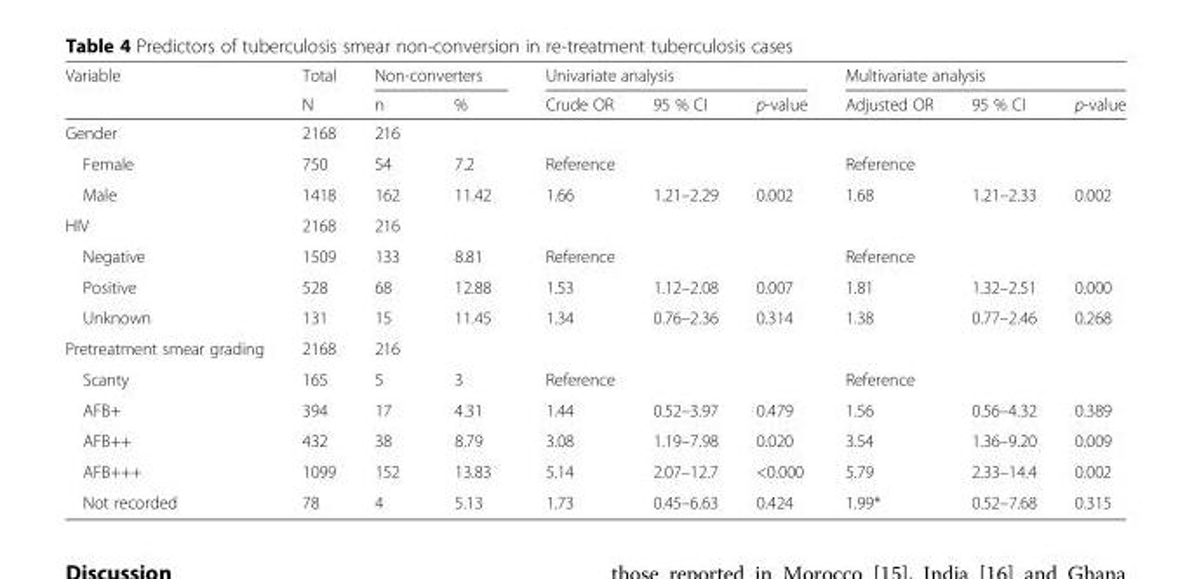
<table><thead><tr><td rowspan="2">Variable</td><td rowspan="2">Total N</td><td colspan="2">Non-converters</td><td colspan="3">Univariate analysis</td><td colspan="3">Multivariate analysis</td></tr><tr><td>n</td><td>%</td><td>Crude OR</td><td>95 % CI</td><td>p-value</td><td>Adjusted OR</td><td>95 % CI</td><td>p-value</td></tr></thead><tbody><tr><td>Gender</td><td>2168</td><td>216</td><td></td><td></td><td></td><td></td><td></td><td></td><td></td></tr><tr><td>Female</td><td>750</td><td>54</td><td>7.2</td><td>Reference</td><td></td><td></td><td>Reference</td><td></td><td></td></tr><tr><td>Male</td><td>1418</td><td>162</td><td>11.42</td><td>1.66</td><td>1.21–2.29</td><td>0.002</td><td>1.68</td><td>1.21–2.33</td><td>0.002</td></tr><tr><td>HIV</td><td>2168</td><td>216</td><td></td><td></td><td></td><td></td><td></td><td></td><td></td></tr><tr><td>Negative</td><td>1509</td><td>133</td><td>8.81</td><td>Reference</td><td></td><td></td><td>Reference</td><td></td><td></td></tr><tr><td>Positive</td><td>528</td><td>68</td><td>12.88</td><td>1.53</td><td>1.12–2.08</td><td>0.007</td><td>1.81</td><td>1.32–2.51</td><td>0.000</td></tr><tr><td>Unknown</td><td>131</td><td>15</td><td>11.45</td><td>1.34</td><td>0.76–2.36</td><td>0.314</td><td>1.38</td><td>0.77–2.46</td><td>0.268</td></tr><tr><td>Pretreatment smear grading</td><td>2168</td><td>216</td><td></td><td></td><td></td><td></td><td></td><td></td><td></td></tr><tr><td>Scanty</td><td>165</td><td>5</td><td>3</td><td>Reference</td><td></td><td></td><td>Reference</td><td></td><td></td></tr><tr><td>AFB+</td><td>394</td><td>17</td><td>4.31</td><td>1.44</td><td>0.52–3.97</td><td>0.479</td><td>1.56</td><td>0.56–4.32</td><td>0.389</td></tr><tr><td>AFB++</td><td>432</td><td>38</td><td>8.79</td><td>3.08</td><td>1.19–7.98</td><td>0.020</td><td>3.54</td><td>1.36–9.20</td><td>0.009</td></tr><tr><td>AFB+++</td><td>1099</td><td>152</td><td>13.83</td><td>5.14</td><td>2.07–12.7</td><td>&lt;0.000</td><td>5.79</td><td>2.33–14.4</td><td>0.002</td></tr><tr><td>Not recorded</td><td>78</td><td>4</td><td>5.13</td><td>1.73</td><td>0.45–6.63</td><td>0.424</td><td>1.99*</td><td>0.52–7.68</td><td>0.315</td></tr></tbody></table>